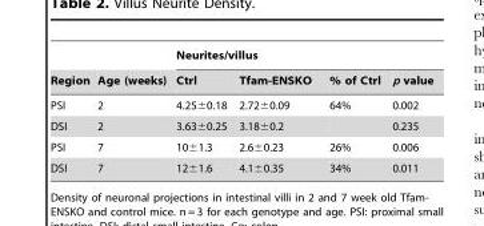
<table><thead><tr><td rowspan="2">Region</td><td rowspan="2">Age (weeks)</td><td colspan="4">Neurites/villus</td></tr><tr><td>Ctrl</td><td>Tfam-ENSKO</td><td>% of Ctrl</td><td>p value</td></tr></thead><tbody><tr><td>PSI</td><td>2</td><td>4.25±0.18</td><td>2.72±0.09</td><td>64%</td><td>0.002</td></tr><tr><td>DSI</td><td>2</td><td>3.63±0.25</td><td>3.18±0.2</td><td></td><td>0.235</td></tr><tr><td>PSI</td><td>7</td><td>10±1.3</td><td>2.6±0.23</td><td>26%</td><td>0.006</td></tr><tr><td>DSI</td><td>7</td><td>12±1.6</td><td>4.1±0.35</td><td>34%</td><td>0.011</td></tr></tbody></table>